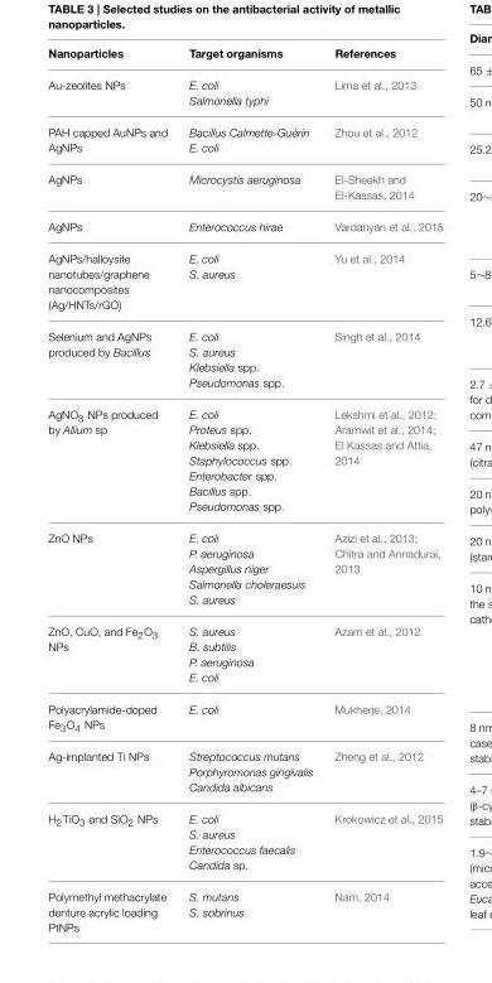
<table><thead><tr><td>Nanoparticles</td><td>Target organisms</td><td>References</td></tr></thead><tbody><tr><td>Au-zeolites NPs</td><td>E. coli Salmonella typhi</td><td>Lima et al., 2013</td></tr><tr><td>PAH capped AuNPs and AgNPs</td><td>Bacillus Calmette-Guérin E. coli</td><td>Zhou et al., 2012</td></tr><tr><td>AgNPs</td><td>Microcystis aeruginosa</td><td>El-Sheekh and El-Kassas, 2014</td></tr><tr><td>AgNPs</td><td>Enterococcus hirae</td><td>Vardanyan et al., 2015</td></tr><tr><td>AgNPs/halloysite nanotubes/graphene nanocomposites (Ag/HNTs/rGO)</td><td>E. coli S. aureus</td><td>Yu et al., 2014</td></tr><tr><td>Selenium and AgNPs produced by Bacillus</td><td>E. coli S. aureus Klebsiella spp. Pseudomonas spp.</td><td>Singh et al., 2014</td></tr><tr><td>AgNO<sub>3</sub> NPs produced by Allium sp</td><td>E. coli Proteus spp. Klebsiella spp. Staphylococcus spp. Enterobacter spp. Bacillus spp. Pseudomonas spp.</td><td>Lekshmi et al., 2012; Aramwit et al., 2014; El Kassas and Attia, 2014</td></tr><tr><td>ZnO NPs</td><td>E. coli P. aeruginosa Aspergillus niger Salmonella choleraesuis S. aureus</td><td>Azizi et al., 2013; Chitra and Annadurai, 2013</td></tr><tr><td>ZnO, CuO, and Fe<sub>2</sub>O<sub>3</sub> NPs</td><td>S. aureus B. subtilis P. aeruginosa E. coli</td><td>Azam et al., 2012</td></tr><tr><td>Polyacrylamide-doped Fe<sub>3</sub>O<sub>4</sub> NPs</td><td>E. coli</td><td>Mukherje, 2014</td></tr><tr><td>Ag-implanted Ti NPs</td><td>Streptococcus mutans Porphyromonas gingivalis Candida albicans</td><td>Zheng et al., 2012</td></tr><tr><td>H<sub>2</sub>TiO<sub>3</sub> and SiO<sub>2</sub> NPs</td><td>E. coli S. aureus Enterococcus faecalis Candida sp.</td><td>Krokowicz et al., 2015</td></tr><tr><td>Polymethyl methacrylate denture acrylic loading PtNPs</td><td>S. mutans S. sobrinus</td><td>Nam, 2014</td></tr></tbody></table>